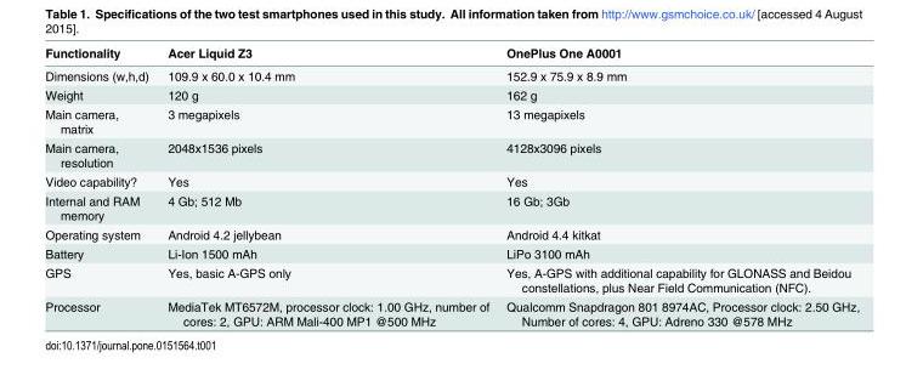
<table><thead><tr><td>Functionality</td><td>Acer Liquid Z3</td><td>OnePlus One A0001</td></tr></thead><tbody><tr><td>Dimensions (w,h,d)</td><td>109.9 x 60.0 x 10.4 mm</td><td>152.9 x 75.9 x 8.9 mm</td></tr><tr><td>Weight</td><td>120 g</td><td>162 g</td></tr><tr><td>Main camera, matrix</td><td>3 megapixels</td><td>13 megapixels</td></tr><tr><td>Main camera, resolution</td><td>2048x1536 pixels</td><td>4128x3096 pixels</td></tr><tr><td>Video capability?</td><td>Yes</td><td>Yes</td></tr><tr><td>Internal and RAM memory</td><td>4 Gb; 512 Mb</td><td>16 Gb; 3Gb</td></tr><tr><td>Operating system</td><td>Android 4.2 jellybean</td><td>Android 4.4 kitkat</td></tr><tr><td>Battery</td><td>Li-Ion 1500 mAh</td><td>LiPo 3100 mAh</td></tr><tr><td>GPS</td><td>Yes, basic A-GPS only</td><td>Yes, A-GPS with additional capability for GLONASS and Beidou constellations, plus Near Field Communication (NFC).</td></tr><tr><td>Processor</td><td>MediaTek MT6572M, processor clock: 1.00 GHz, number of cores: 2, GPU: ARM Mali-400 MP1 @500 MHz</td><td>Qualcomm Snapdragon 801 8974AC, Processor clock: 2.50 GHz, Number of cores: 4, GPU: Adreno 330 @578 MHz</td></tr></tbody></table>